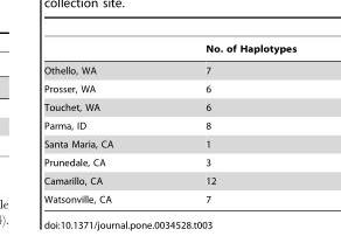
<table><thead><tr><td></td><td>No. of Haplotypes</td></tr></thead><tbody><tr><td>Othello, WA</td><td>7</td></tr><tr><td>Prosser, WA</td><td>6</td></tr><tr><td>Touchet, WA</td><td>6</td></tr><tr><td>Parma, ID</td><td>8</td></tr><tr><td>Santa Maria, CA</td><td>1</td></tr><tr><td>Prunedale, CA</td><td>3</td></tr><tr><td>Camarillo, CA</td><td>12</td></tr><tr><td>Watsonville, CA</td><td>7</td></tr></tbody></table>